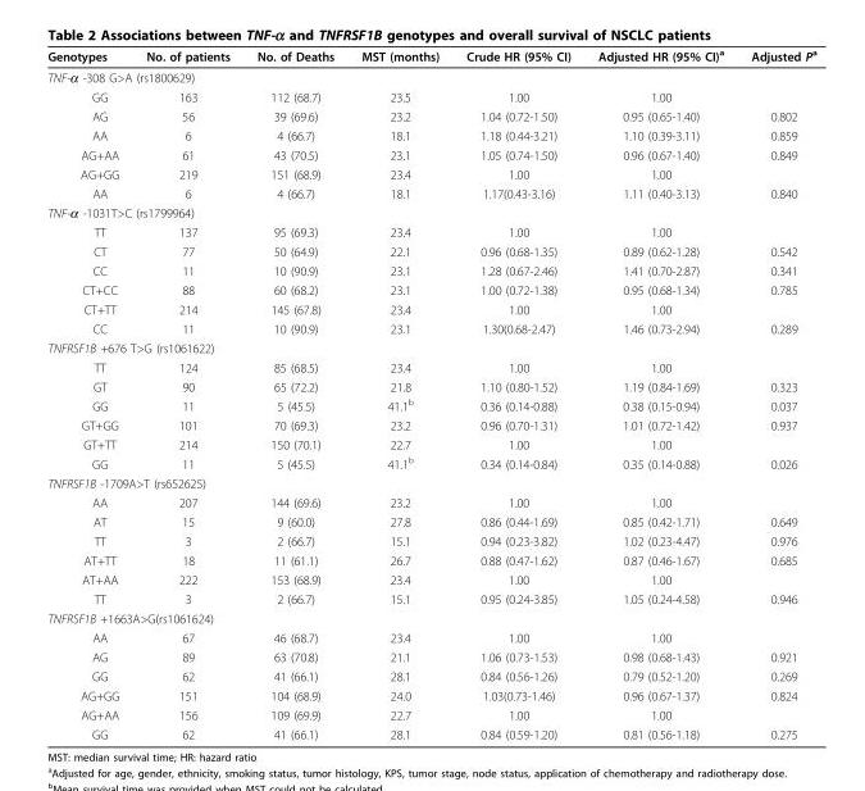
<table><thead><tr><td>Genotypes</td><td>No. of patients</td><td>No. of Deaths</td><td>MST (months)</td><td>Crude HR (95% CI)</td><td>Adjusted HR (95% CI)<sup>a</sup></td><td>Adjusted P<sup>a</sup></td></tr></thead><tbody><tr><td colspan="7">TNF-α -308 G&gt;A (rs1800629)</td></tr><tr><td>GG</td><td>163</td><td>112 (68.7)</td><td>23.5</td><td>1.00</td><td>1.00</td><td></td></tr><tr><td>AG</td><td>56</td><td>39 (69.6)</td><td>23.2</td><td>1.04 (0.72-1.50)</td><td>0.95 (0.65-1.40)</td><td>0.802</td></tr><tr><td>AA</td><td>6</td><td>4 (66.7)</td><td>18.1</td><td>1.18 (0.44-3.21)</td><td>1.10 (0.39-3.11)</td><td>0.859</td></tr><tr><td>AG+AA</td><td>61</td><td>43 (70.5)</td><td>23.1</td><td>1.05 (0.74-1.50)</td><td>0.96 (0.67-1.40)</td><td>0.849</td></tr><tr><td>AG+GG</td><td>219</td><td>151 (68.9)</td><td>23.4</td><td>1.00</td><td>1.00</td><td></td></tr><tr><td>AA</td><td>6</td><td>4 (66.7)</td><td>18.1</td><td>1.17(0.43-3.16)</td><td>1.11 (0.40-3.13)</td><td>0.840</td></tr><tr><td colspan="7">TNF-α -1031T&gt;C (rs1799964)</td></tr><tr><td>TT</td><td>137</td><td>95 (69.3)</td><td>23.4</td><td>1.00</td><td>1.00</td><td></td></tr><tr><td>CT</td><td>77</td><td>50 (64.9)</td><td>22.1</td><td>0.96 (0.68-1.35)</td><td>0.89 (0.62-1.28)</td><td>0.542</td></tr><tr><td>CC</td><td>11</td><td>10 (90.9)</td><td>23.1</td><td>1.28 (0.67-2.46)</td><td>1.41 (0.70-2.87)</td><td>0.341</td></tr><tr><td>CT+CC</td><td>88</td><td>60 (68.2)</td><td>23.1</td><td>1.00 (0.72-1.38)</td><td>0.95 (0.68-1.34)</td><td>0.785</td></tr><tr><td>CT+TT</td><td>214</td><td>145 (67.8)</td><td>23.4</td><td>1.00</td><td>1.00</td><td></td></tr><tr><td>CC</td><td>11</td><td>10 (90.9)</td><td>23.1</td><td>1.30(0.68-2.47)</td><td>1.46 (0.73-2.94)</td><td>0.289</td></tr><tr><td colspan="7">TNFRSF1B +676 T&gt;G (rs1061622)</td></tr><tr><td>TT</td><td>124</td><td>85 (68.5)</td><td>23.4</td><td>1.00</td><td>1.00</td><td></td></tr><tr><td>GT</td><td>90</td><td>65 (72.2)</td><td>21.8</td><td>1.10 (0.80-1.52)</td><td>1.19 (0.84-1.69)</td><td>0.323</td></tr><tr><td>GG</td><td>11</td><td>5 (45.5)</td><td>41.1<sup>b</sup></td><td>0.36 (0.14-0.88)</td><td>0.38 (0.15-0.94)</td><td>0.037</td></tr><tr><td>GT+GG</td><td>101</td><td>70 (69.3)</td><td>23.2</td><td>0.96 (0.70-1.31)</td><td>1.01 (0.72-1.42)</td><td>0.937</td></tr><tr><td>GT+TT</td><td>214</td><td>150 (70.1)</td><td>22.7</td><td>1.00</td><td>1.00</td><td></td></tr><tr><td>GG</td><td>11</td><td>5 (45.5)</td><td>41.1<sup>b</sup></td><td>0.34 (0.14-0.84)</td><td>0.35 (0.14-0.88)</td><td>0.026</td></tr><tr><td colspan="7">TNFRSF1B -1709A&gt;T (rs652625)</td></tr><tr><td>AA</td><td>207</td><td>144 (69.6)</td><td>23.2</td><td>1.00</td><td>1.00</td><td></td></tr><tr><td>AT</td><td>15</td><td>9 (60.0)</td><td>27.8</td><td>0.86 (0.44-1.69)</td><td>0.85 (0.42-1.71)</td><td>0.649</td></tr><tr><td>TT</td><td>3</td><td>2 (66.7)</td><td>15.1</td><td>0.94 (0.23-3.82)</td><td>1.02 (0.23-4.47)</td><td>0.976</td></tr><tr><td>AT+TT</td><td>18</td><td>11 (61.1)</td><td>26.7</td><td>0.88 (0.47-1.62)</td><td>0.87 (0.46-1.67)</td><td>0.685</td></tr><tr><td>AT+AA</td><td>222</td><td>153 (68.9)</td><td>23.4</td><td>1.00</td><td>1.00</td><td></td></tr><tr><td>TT</td><td>3</td><td>2 (66.7)</td><td>15.1</td><td>0.95 (0.24-3.85)</td><td>1.05 (0.24-4.58)</td><td>0.946</td></tr><tr><td colspan="7">TNFRSF1B +1663A&gt;G(rs1061624)</td></tr><tr><td>AA</td><td>67</td><td>46 (68.7)</td><td>23.4</td><td>1.00</td><td>1.00</td><td></td></tr><tr><td>AG</td><td>89</td><td>63 (70.8)</td><td>21.1</td><td>1.06 (0.73-1.53)</td><td>0.98 (0.68-1.43)</td><td>0.921</td></tr><tr><td>GG</td><td>62</td><td>41 (66.1)</td><td>28.1</td><td>0.84 (0.56-1.26)</td><td>0.79 (0.52-1.20)</td><td>0.269</td></tr><tr><td>AG+GG</td><td>151</td><td>104 (68.9)</td><td>24.0</td><td>1.03(0.73-1.46)</td><td>0.96 (0.67-1.37)</td><td>0.824</td></tr><tr><td>AG+AA</td><td>156</td><td>109 (69.9)</td><td>22.7</td><td>1.00</td><td>1.00</td><td></td></tr><tr><td>GG</td><td>62</td><td>41 (66.1)</td><td>28.1</td><td>0.84 (0.59-1.20)</td><td>0.81 (0.56-1.18)</td><td>0.275</td></tr></tbody></table>